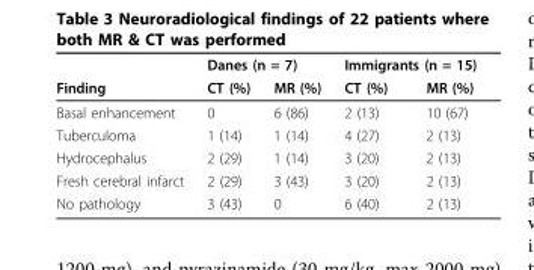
<table><thead><tr><td rowspan="2">Finding</td><td colspan="2">Danes (n = 7)</td><td colspan="2">Immigrants (n = 15)</td></tr><tr><td>CT (%)</td><td>MR (%)</td><td>CT (%)</td><td>MR (%)</td></tr></thead><tbody><tr><td>Basal enhancement</td><td>0</td><td>6 (86)</td><td>2 (13)</td><td>10 (67)</td></tr><tr><td>Tuberculoma</td><td>1 (14)</td><td>1 (14)</td><td>4 (27)</td><td>2 (13)</td></tr><tr><td>Hydrocephalus</td><td>2 (29)</td><td>1 (14)</td><td>3 (20)</td><td>2 (13)</td></tr><tr><td>Fresh cerebral infarct</td><td>2 (29)</td><td>3 (43)</td><td>3 (20)</td><td>2 (13)</td></tr><tr><td>No pathology</td><td>3 (43)</td><td>0</td><td>6 (40)</td><td>2 (13)</td></tr></tbody></table>